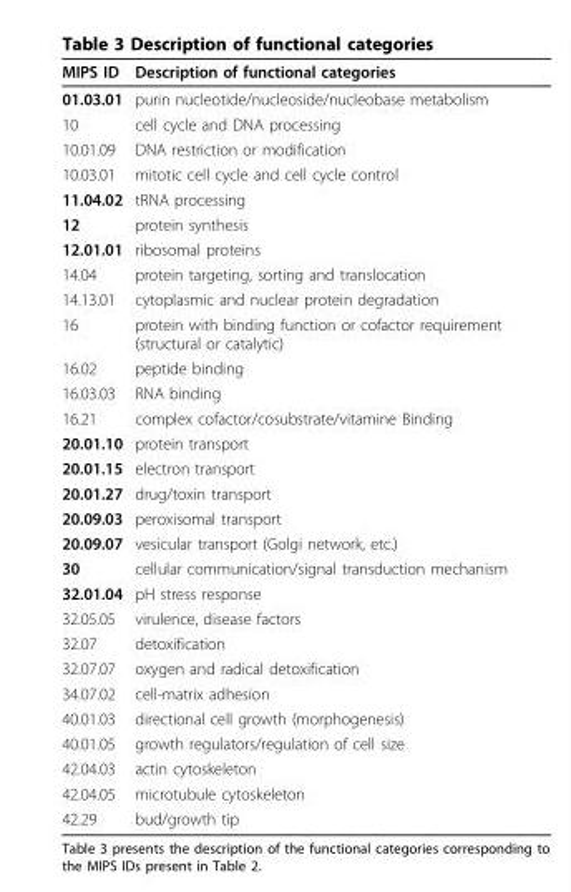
<table><thead><tr><td>MIPS ID</td><td>Description of functional categories</td></tr></thead><tbody><tr><td>01.03.01</td><td>purin nucleotide/nucleoside/nucleobase metabolism</td></tr><tr><td>10</td><td>cell cycle and DNA processing</td></tr><tr><td>10.01.09</td><td>DNA restriction or modification</td></tr><tr><td>10.03.01</td><td>mitotic cell cycle and cell cycle control</td></tr><tr><td>11.04.02</td><td>tRNA processing</td></tr><tr><td>12</td><td>protein synthesis</td></tr><tr><td>12.01.01</td><td>ribosomal proteins</td></tr><tr><td>14.04</td><td>protein targeting, sorting and translocation</td></tr><tr><td>14.13.01</td><td>cytoplasmic and nuclear protein degradation</td></tr><tr><td>16</td><td>protein with binding function or cofactor requirement (structural or catalytic)</td></tr><tr><td>16.02</td><td>peptide binding</td></tr><tr><td>16.03.03</td><td>RNA binding</td></tr><tr><td>16.21</td><td>complex cofactor/cosubstrate/vitamine Binding</td></tr><tr><td>20.01.10</td><td>protein transport</td></tr><tr><td>20.01.15</td><td>electron transport</td></tr><tr><td>20.01.27</td><td>drug/toxin transport</td></tr><tr><td>20.09.03</td><td>peroxisomal transport</td></tr><tr><td>20.09.07</td><td>vesicular transport (Golgi network, etc.)</td></tr><tr><td>30</td><td>cellular communication/signal transduction mechanism</td></tr><tr><td>32.01.04</td><td>pH stress response</td></tr><tr><td>32.05.05</td><td>virulence, disease factors</td></tr><tr><td>32.07</td><td>detoxification</td></tr><tr><td>32.07.07</td><td>oxygen and radical detoxification</td></tr><tr><td>34.07.02</td><td>cell-matrix adhesion</td></tr><tr><td>40.01.03</td><td>directional cell growth (morphogenesis)</td></tr><tr><td>40.01.05</td><td>growth regulators/regulation of cell size</td></tr><tr><td>42.04.03</td><td>actin cytoskeleton</td></tr><tr><td>42.04.05</td><td>microtubule cytoskeleton</td></tr><tr><td>42.29</td><td>bud/growth tip</td></tr></tbody></table>